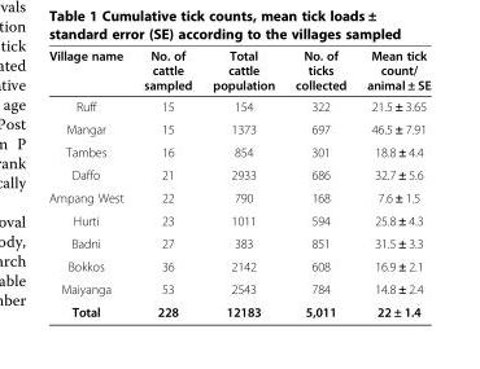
<table><thead><tr><td>Village name</td><td>No. of cattle sampled</td><td>Total cattle population</td><td>No. of ticks collected</td><td>Mean tick count/ animal ± SE</td></tr></thead><tbody><tr><td>Ruff</td><td>15</td><td>154</td><td>322</td><td>21.5 ± 3.65</td></tr><tr><td>Mangar</td><td>15</td><td>1373</td><td>697</td><td>46.5 ± 7.91</td></tr><tr><td>Tambes</td><td>16</td><td>854</td><td>301</td><td>18.8 ± 4.4</td></tr><tr><td>Daffo</td><td>21</td><td>2933</td><td>686</td><td>32.7 ± 5.6</td></tr><tr><td>Ampang West</td><td>22</td><td>790</td><td>168</td><td>7.6 ± 1.5</td></tr><tr><td>Hurti</td><td>23</td><td>1011</td><td>594</td><td>25.8 ± 4.3</td></tr><tr><td>Badni</td><td>27</td><td>383</td><td>851</td><td>31.5 ± 3.3</td></tr><tr><td>Bokkos</td><td>36</td><td>2142</td><td>608</td><td>16.9 ± 2.1</td></tr><tr><td>Maiyanga</td><td>53</td><td>2543</td><td>784</td><td>14.8 ± 2.4</td></tr><tr><td>Total</td><td>228</td><td>12183</td><td>5,011</td><td>22 ± 1.4</td></tr></tbody></table>